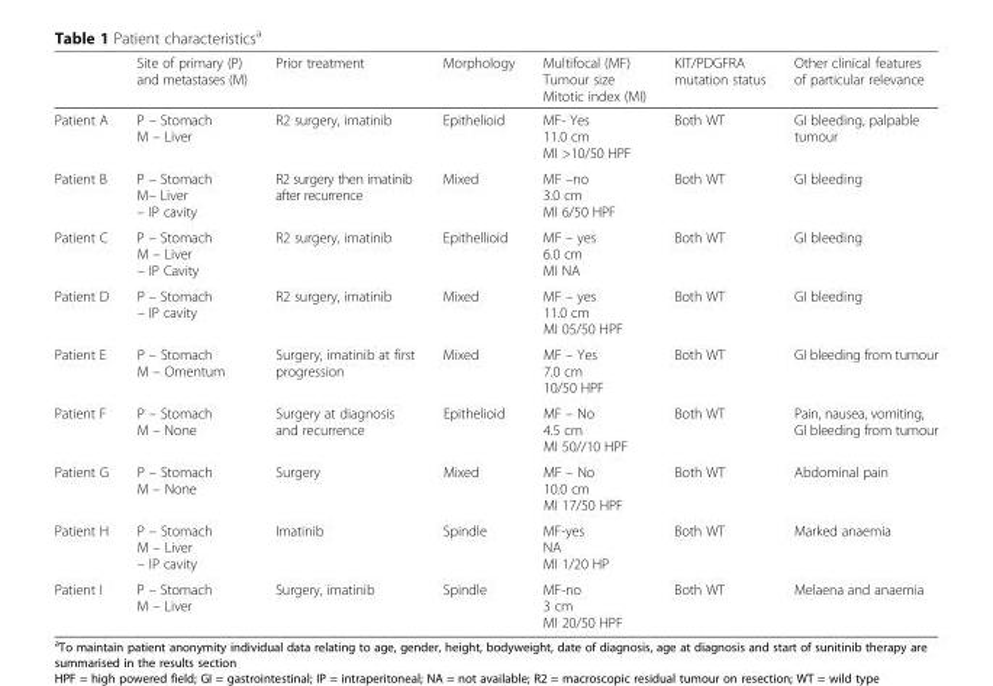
<table><thead><tr><td></td><td>Site of primary (P) and metastases (M)</td><td>Prior treatment</td><td>Morphology</td><td>Multifocal (MF) Tumour size Mitotic index (MI)</td><td>KIT/PDGFRA mutation status</td><td>Other clinical features of particular relevance</td></tr></thead><tbody><tr><td>Patient A</td><td>P – Stomach M – Liver</td><td>R2 surgery, imatinib</td><td>Epithelioid</td><td>MF- Yes 11.0 cm MI &gt;10/50 HPF</td><td>Both WT</td><td>GI bleeding, palpable tumour</td></tr><tr><td>Patient B</td><td>P – Stomach M– Liver – IP cavity</td><td>R2 surgery then imatinib after recurrence</td><td>Mixed</td><td>MF –no 3.0 cm MI 6/50 HPF</td><td>Both WT</td><td>GI bleeding</td></tr><tr><td>Patient C</td><td>P – Stomach M – Liver – IP Cavity</td><td>R2 surgery, imatinib</td><td>Epithellioid</td><td>MF – yes 6.0 cm MI NA</td><td>Both WT</td><td>GI bleeding</td></tr><tr><td>Patient D</td><td>P – Stomach – IP cavity</td><td>R2 surgery, imatinib</td><td>Mixed</td><td>MF – yes 11.0 cm MI 05/50 HPF</td><td>Both WT</td><td>GI bleeding</td></tr><tr><td>Patient E</td><td>P – Stomach M – Omentum</td><td>Surgery, imatinib at first progression</td><td>Mixed</td><td>MF – Yes 7.0 cm 10/50 HPF</td><td>Both WT</td><td>GI bleeding from tumour</td></tr><tr><td>Patient F</td><td>P – Stomach M – None</td><td>Surgery at diagnosis and recurrence</td><td>Epithelioid</td><td>MF – No 4.5 cm MI 50//10 HPF</td><td>Both WT</td><td>Pain, nausea, vomiting, GI bleeding from tumour</td></tr><tr><td>Patient G</td><td>P – Stomach M – None</td><td>Surgery</td><td>Mixed</td><td>MF – No 10.0 cm MI 17/50 HPF</td><td>Both WT</td><td>Abdominal pain</td></tr><tr><td>Patient H</td><td>P – Stomach M – Liver – IP cavity</td><td>Imatinib</td><td>Spindle</td><td>MF-yes NA MI 1/20 HP</td><td>Both WT</td><td>Marked anaemia</td></tr><tr><td>Patient I</td><td>P – Stomach M – Liver</td><td>Surgery, imatinib</td><td>Spindle</td><td>MF-no 3 cm MI 20/50 HPF</td><td>Both WT</td><td>Melaena and anaemia</td></tr></tbody></table>